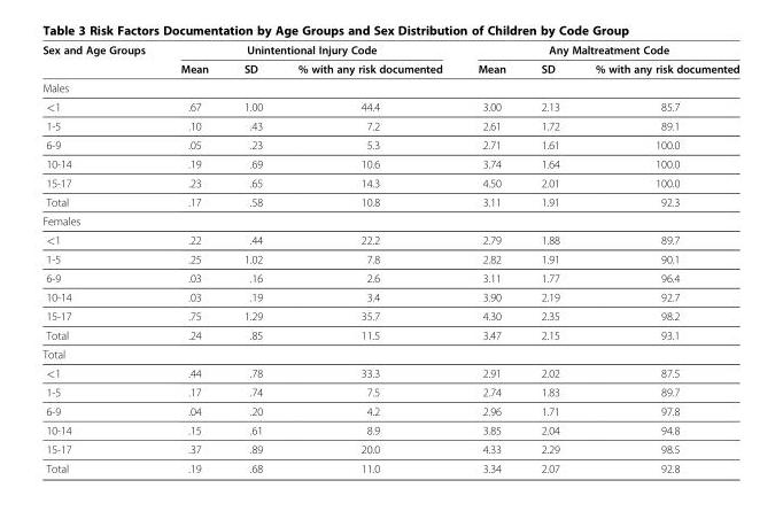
<table><thead><tr><td rowspan="2">Sex and Age Groups</td><td colspan="3">Unintentional Injury Code</td><td colspan="3">Any Maltreatment Code</td></tr><tr><td>Mean</td><td>SD</td><td>% with any risk documented</td><td>Mean</td><td>SD</td><td>% with any risk documented</td></tr></thead><tbody><tr><td colspan="7">Males</td></tr><tr><td>&lt;1</td><td>.67</td><td>1.00</td><td>44.4</td><td>3.00</td><td>2.13</td><td>85.7</td></tr><tr><td>1-5</td><td>.10</td><td>.43</td><td>7.2</td><td>2.61</td><td>1.72</td><td>89.1</td></tr><tr><td>6-9</td><td>.05</td><td>.23</td><td>5.3</td><td>2.71</td><td>1.61</td><td>100.0</td></tr><tr><td>10-14</td><td>.19</td><td>.69</td><td>10.6</td><td>3.74</td><td>1.64</td><td>100.0</td></tr><tr><td>15-17</td><td>.23</td><td>.65</td><td>14.3</td><td>4.50</td><td>2.01</td><td>100.0</td></tr><tr><td>Total</td><td>.17</td><td>.58</td><td>10.8</td><td>3.11</td><td>1.91</td><td>92.3</td></tr><tr><td colspan="7">Females</td></tr><tr><td>&lt;1</td><td>.22</td><td>.44</td><td>22.2</td><td>2.79</td><td>1.88</td><td>89.7</td></tr><tr><td>1-5</td><td>.25</td><td>1.02</td><td>7.8</td><td>2.82</td><td>1.91</td><td>90.1</td></tr><tr><td>6-9</td><td>.03</td><td>.16</td><td>2.6</td><td>3.11</td><td>1.77</td><td>96.4</td></tr><tr><td>10-14</td><td>.03</td><td>.19</td><td>3.4</td><td>3.90</td><td>2.19</td><td>92.7</td></tr><tr><td>15-17</td><td>.75</td><td>1.29</td><td>35.7</td><td>4.30</td><td>2.35</td><td>98.2</td></tr><tr><td>Total</td><td>.24</td><td>.85</td><td>11.5</td><td>3.47</td><td>2.15</td><td>93.1</td></tr><tr><td colspan="7">Total</td></tr><tr><td>&lt;1</td><td>.44</td><td>.78</td><td>33.3</td><td>2.91</td><td>2.02</td><td>87.5</td></tr><tr><td>1-5</td><td>.17</td><td>.74</td><td>7.5</td><td>2.74</td><td>1.83</td><td>89.7</td></tr><tr><td>6-9</td><td>.04</td><td>.20</td><td>4.2</td><td>2.96</td><td>1.71</td><td>97.8</td></tr><tr><td>10-14</td><td>.15</td><td>.61</td><td>8.9</td><td>3.85</td><td>2.04</td><td>94.8</td></tr><tr><td>15-17</td><td>.37</td><td>.89</td><td>20.0</td><td>4.33</td><td>2.29</td><td>98.5</td></tr><tr><td>Total</td><td>.19</td><td>.68</td><td>11.0</td><td>3.34</td><td>2.07</td><td>92.8</td></tr></tbody></table>